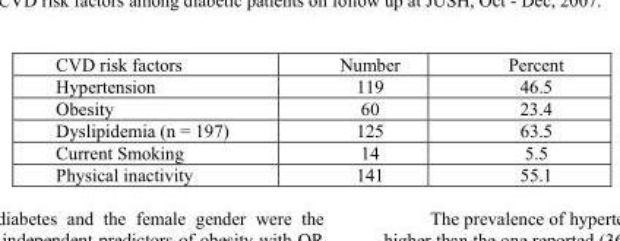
<table><thead><tr><td>CVD risk factors</td><td>Number</td><td>Percent</td></tr></thead><tbody><tr><td>Hypertension</td><td>119</td><td>46.5</td></tr><tr><td>Obesity</td><td>60</td><td>23.4</td></tr><tr><td>Dyslipidemia (n = 197)</td><td>125</td><td>63.5</td></tr><tr><td>Current Smoking</td><td>14</td><td>5.5</td></tr><tr><td>Physical inactivity</td><td>141</td><td>55.1</td></tr></tbody></table>